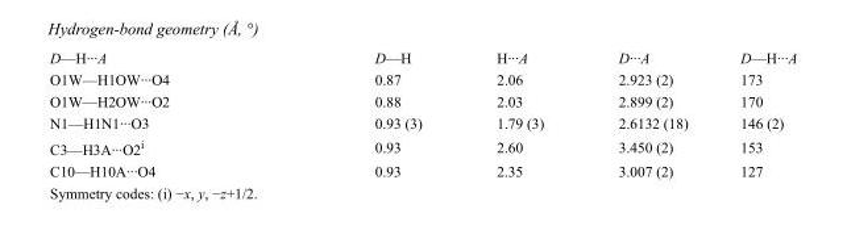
<table><tbody><tr><td>D—H···A</td><td>D—H</td><td>H···A</td><td>D···A</td><td>D—H···A</td></tr><tr><td>O1W—H1OW···O4</td><td>0.87</td><td>2.06</td><td>2.923 (2)</td><td>173</td></tr><tr><td>O1W—H2OW···O2</td><td>0.88</td><td>2.03</td><td>2.899 (2)</td><td>170</td></tr><tr><td>N1—H1N1···O3</td><td>0.93 (3)</td><td>1.79 (3)</td><td>2.6132 (18)</td><td>146 (2)</td></tr><tr><td>C3—H3A···O2<sup>i</sup></td><td>0.93</td><td>2.60</td><td>3.450 (2)</td><td>153</td></tr><tr><td>C10—H10A···O4</td><td>0.93</td><td>2.35</td><td>3.007 (2)</td><td>127</td></tr></tbody></table>